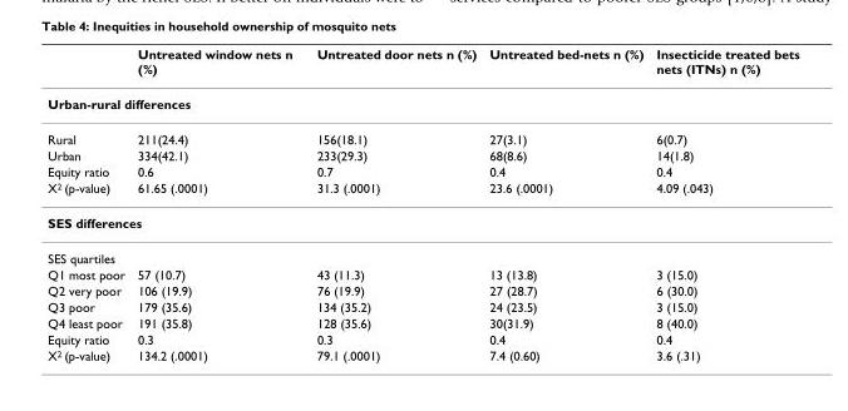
<table><thead><tr><td></td><td>Untreated window nets n (%)</td><td>Untreated door nets n (%)</td><td>Untreated bed-nets n (%)</td><td>Insecticide treated bets nets (ITNs) n (%)</td></tr></thead><tbody><tr><td colspan="5">Urban-rural differences</td></tr><tr><td>Rural</td><td>211(24.4)</td><td>156(18.1)</td><td>27(3.1)</td><td>6(0.7)</td></tr><tr><td>Urban</td><td>334(42.1)</td><td>233(29.3)</td><td>68(8.6)</td><td>14(1.8)</td></tr><tr><td>Equity ratio</td><td>0.6</td><td>0.7</td><td>0.4</td><td>0.4</td></tr><tr><td>X<sup>2</sup> (p-value)</td><td>61.65 (.0001)</td><td>31.3 (.0001)</td><td>23.6 (.0001)</td><td>4.09 (.043)</td></tr><tr><td colspan="5">SES differences</td></tr><tr><td colspan="5">SES quartiles</td></tr><tr><td>Q1 most poor</td><td>57 (10.7)</td><td>43 (11.3)</td><td>13 (13.8)</td><td>3 (15.0)</td></tr><tr><td>Q2 very poor</td><td>106 (19.9)</td><td>76 (19.9)</td><td>27 (28.7)</td><td>6 (30.0)</td></tr><tr><td>Q3 poor</td><td>179 (35.6)</td><td>134 (35.2)</td><td>24 (23.5)</td><td>3 (15.0)</td></tr><tr><td>Q4 least poor</td><td>191 (35.8)</td><td>128 (35.6)</td><td>30(31.9)</td><td>8 (40.0)</td></tr><tr><td>Equity ratio</td><td>0.3</td><td>0.3</td><td>0.4</td><td>0.4</td></tr><tr><td>X<sup>2</sup> (p-value)</td><td>134.2 (.0001)</td><td>79.1 (.0001)</td><td>7.4 (0.60)</td><td>3.6 (.31)</td></tr></tbody></table>